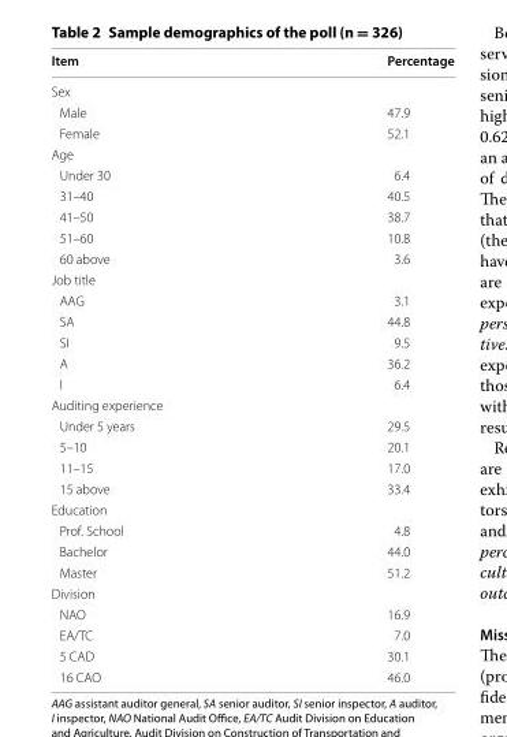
<table><thead><tr><td>Item</td><td>Percentage</td></tr></thead><tbody><tr><td colspan="2">Sex</td></tr><tr><td>Male</td><td>47.9</td></tr><tr><td>Female</td><td>52.1</td></tr><tr><td colspan="2">Age</td></tr><tr><td>Under 30</td><td>6.4</td></tr><tr><td>31–40</td><td>40.5</td></tr><tr><td>41–50</td><td>38.7</td></tr><tr><td>51–60</td><td>10.8</td></tr><tr><td>60 above</td><td>3.6</td></tr><tr><td colspan="2">Job title</td></tr><tr><td>AAG</td><td>3.1</td></tr><tr><td>SA</td><td>44.8</td></tr><tr><td>SI</td><td>9.5</td></tr><tr><td>A</td><td>36.2</td></tr><tr><td>I</td><td>6.4</td></tr><tr><td colspan="2">Auditing experience</td></tr><tr><td>Under 5 years</td><td>29.5</td></tr><tr><td>5–10</td><td>20.1</td></tr><tr><td>11–15</td><td>17.0</td></tr><tr><td>15 above</td><td>33.4</td></tr><tr><td colspan="2">Education</td></tr><tr><td>Prof. School</td><td>4.8</td></tr><tr><td>Bachelor</td><td>44.0</td></tr><tr><td>Master</td><td>51.2</td></tr><tr><td colspan="2">Division</td></tr><tr><td>NAO</td><td>16.9</td></tr><tr><td>EA/TC</td><td>7.0</td></tr><tr><td>5 CAD</td><td>30.1</td></tr><tr><td>16 CAO</td><td>46.0</td></tr></tbody></table>